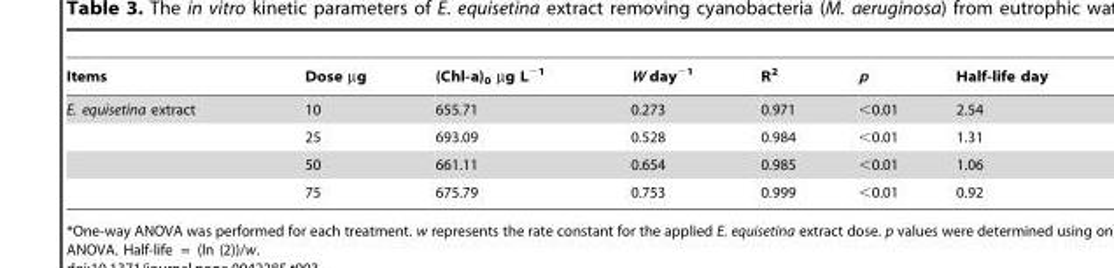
<table><thead><tr><td>Items</td><td>Dose µg</td><td>(Chl-a)<sub>0</sub> µg L<sup>−1</sup></td><td>W day<sup>−1</sup></td><td>R<sup>2</sup></td><td>p</td><td>Half-life day</td></tr></thead><tbody><tr><td rowspan="4">E. equisetina extract</td><td>10</td><td>655.71</td><td>0.273</td><td>0.971</td><td>&lt;0.01</td><td>2.54</td></tr><tr><td>25</td><td>693.09</td><td>0.528</td><td>0.984</td><td>&lt;0.01</td><td>1.31</td></tr><tr><td>50</td><td>661.11</td><td>0.654</td><td>0.985</td><td>&lt;0.01</td><td>1.06</td></tr><tr><td>75</td><td>675.79</td><td>0.753</td><td>0.999</td><td>&lt;0.01</td><td>0.92</td></tr></tbody></table>